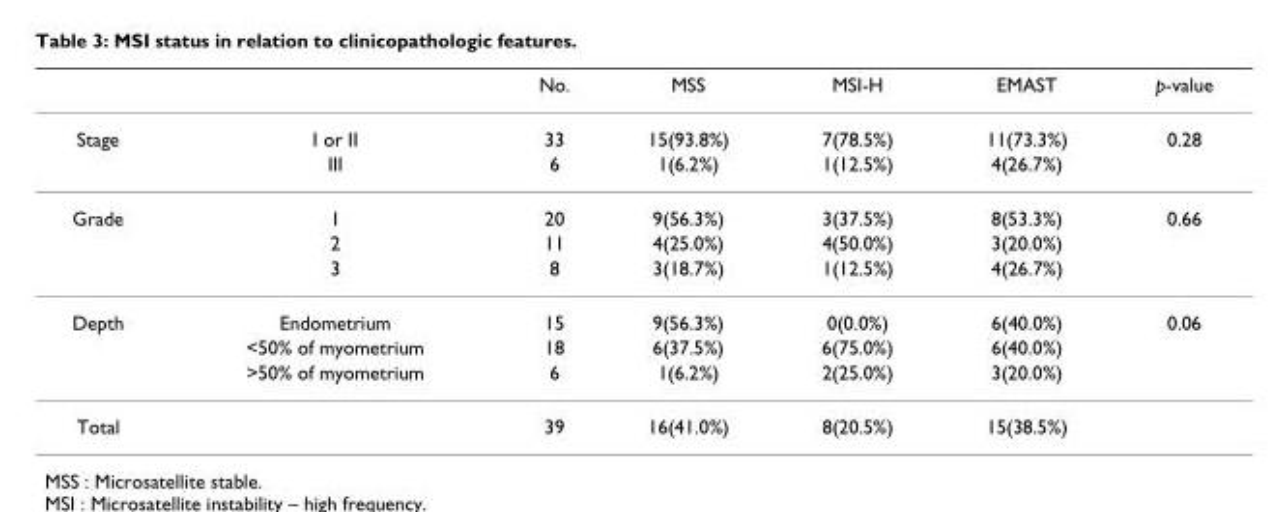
<table><thead><tr><td></td><td></td><td>No.</td><td>MSS</td><td>MSI-H</td><td>EMAST</td><td>p-value</td></tr></thead><tbody><tr><td rowspan="2">Stage</td><td>I or II</td><td>33</td><td>15(93.8%)</td><td>7(78.5%)</td><td>11(73.3%)</td><td>0.28</td></tr><tr><td>III</td><td>6</td><td>1(6.2%)</td><td>1(12.5%)</td><td>4(26.7%)</td><td></td></tr><tr><td rowspan="3">Grade</td><td>1</td><td>20</td><td>9(56.3%)</td><td>3(37.5%)</td><td>8(53.3%)</td><td>0.66</td></tr><tr><td>2</td><td>11</td><td>4(25.0%)</td><td>4(50.0%)</td><td>3(20.0%)</td><td></td></tr><tr><td>3</td><td>8</td><td>3(18.7%)</td><td>1(12.5%)</td><td>4(26.7%)</td><td></td></tr><tr><td rowspan="3">Depth</td><td>Endometrium</td><td>15</td><td>9(56.3%)</td><td>0(0.0%)</td><td>6(40.0%)</td><td>0.06</td></tr><tr><td>&lt;50% of myometrium</td><td>18</td><td>6(37.5%)</td><td>6(75.0%)</td><td>6(40.0%)</td><td></td></tr><tr><td>&gt;50% of myometrium</td><td>6</td><td>1(6.2%)</td><td>2(25.0%)</td><td>3(20.0%)</td><td></td></tr><tr><td>Total</td><td></td><td>39</td><td>16(41.0%)</td><td>8(20.5%)</td><td>15(38.5%)</td><td></td></tr></tbody></table>